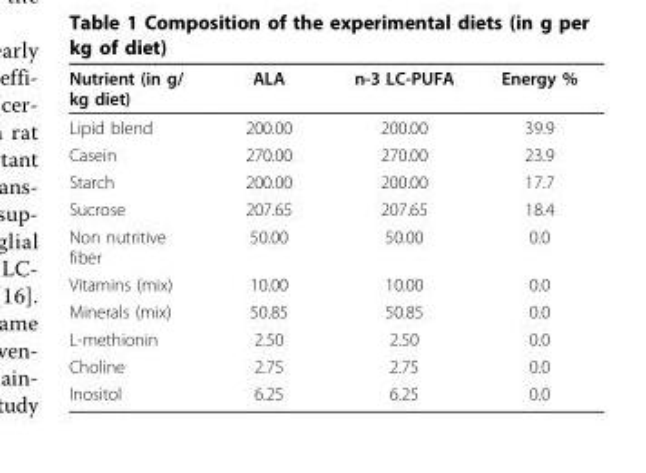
<table><thead><tr><td>Nutrient (in g/ kg diet)</td><td>ALA</td><td>n-3 LC-PUFA</td><td>Energy %</td></tr></thead><tbody><tr><td>Lipid blend</td><td>200.00</td><td>200.00</td><td>39.9</td></tr><tr><td>Casein</td><td>270.00</td><td>270.00</td><td>23.9</td></tr><tr><td>Starch</td><td>200.00</td><td>200.00</td><td>17.7</td></tr><tr><td>Sucrose</td><td>207.65</td><td>207.65</td><td>18.4</td></tr><tr><td>Non nutritive fiber</td><td>50.00</td><td>50.00</td><td>0.0</td></tr><tr><td>Vitamins (mix)</td><td>10.00</td><td>10.00</td><td>0.0</td></tr><tr><td>Minerals (mix)</td><td>50.85</td><td>50.85</td><td>0.0</td></tr><tr><td>L-methionin</td><td>2.50</td><td>2.50</td><td>0.0</td></tr><tr><td>Choline</td><td>2.75</td><td>2.75</td><td>0.0</td></tr><tr><td>Inositol</td><td>6.25</td><td>6.25</td><td>0.0</td></tr></tbody></table>